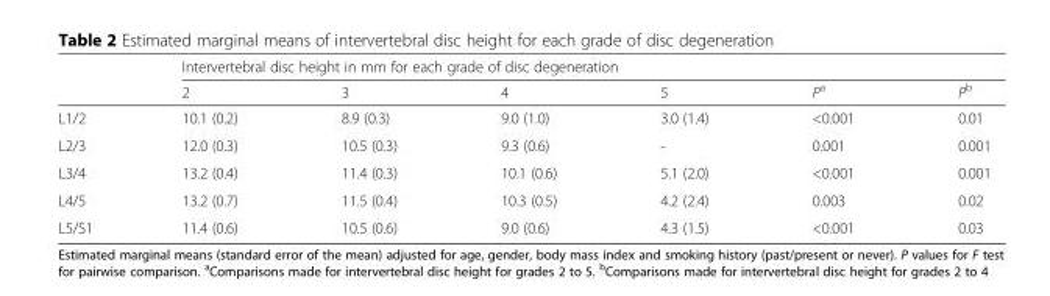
<table><thead><tr><td rowspan="2"></td><td colspan="6">Intervertebral disc height in mm for each grade of disc degeneration</td></tr><tr><td>2</td><td>3</td><td>4</td><td>5</td><td>P<sup>a</sup></td><td>P<sup>b</sup></td></tr></thead><tbody><tr><td>L1/2</td><td>10.1 (0.2)</td><td>8.9 (0.3)</td><td>9.0 (1.0)</td><td>3.0 (1.4)</td><td>&lt;0.001</td><td>0.01</td></tr><tr><td>L2/3</td><td>12.0 (0.3)</td><td>10.5 (0.3)</td><td>9.3 (0.6)</td><td>-</td><td>0.001</td><td>0.001</td></tr><tr><td>L3/4</td><td>13.2 (0.4)</td><td>11.4 (0.3)</td><td>10.1 (0.6)</td><td>5.1 (2.0)</td><td>&lt;0.001</td><td>0.001</td></tr><tr><td>L4/5</td><td>13.2 (0.7)</td><td>11.5 (0.4)</td><td>10.3 (0.5)</td><td>4.2 (2.4)</td><td>0.003</td><td>0.02</td></tr><tr><td>L5/S1</td><td>11.4 (0.6)</td><td>10.5 (0.6)</td><td>9.0 (0.6)</td><td>4.3 (1.5)</td><td>&lt;0.001</td><td>0.03</td></tr></tbody></table>